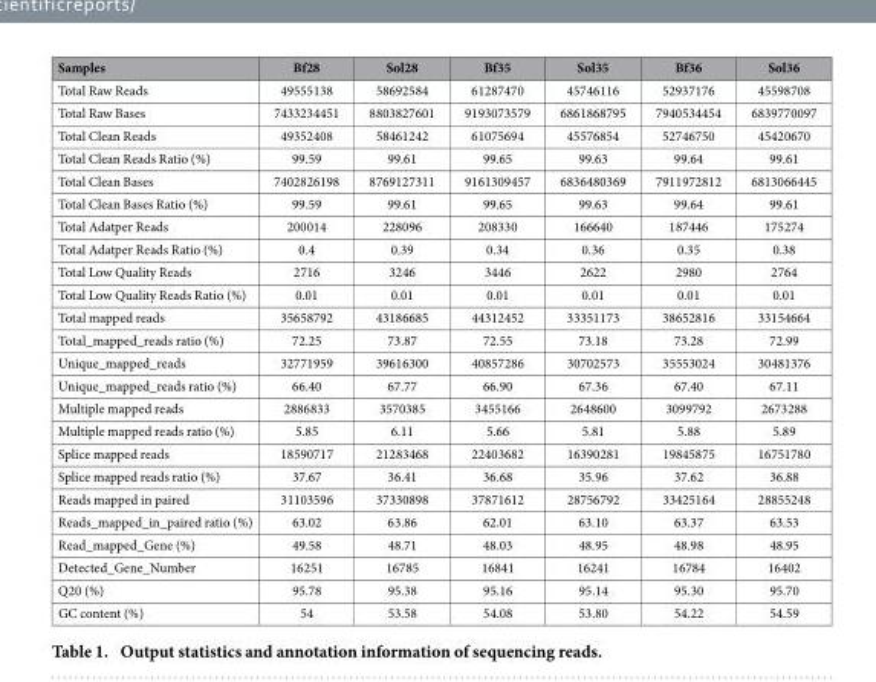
<table><thead><tr><td>Samples</td><td>Bf28</td><td>Sol28</td><td>Bf35</td><td>Sol35</td><td>Bf36</td><td>Sol36</td></tr></thead><tbody><tr><td>Total Raw Reads</td><td>49555138</td><td>58692584</td><td>61287470</td><td>45746116</td><td>52937176</td><td>45598708</td></tr><tr><td>Total Raw Bases</td><td>7433234451</td><td>8803827601</td><td>9193073579</td><td>6861868795</td><td>7940534454</td><td>6839770097</td></tr><tr><td>Total Clean Reads</td><td>49352408</td><td>58461242</td><td>61075694</td><td>45576854</td><td>52746750</td><td>45420670</td></tr><tr><td>Total Clean Reads Ratio (%)</td><td>99.59</td><td>99.61</td><td>99.65</td><td>99.63</td><td>99.64</td><td>99.61</td></tr><tr><td>Total Clean Bases</td><td>7402826198</td><td>8769127311</td><td>9161309457</td><td>6836480369</td><td>7911972812</td><td>6813066445</td></tr><tr><td>Total Clean Bases Ratio (%)</td><td>99.59</td><td>99.61</td><td>99.65</td><td>99.63</td><td>99.64</td><td>99.61</td></tr><tr><td>Total Adatper Reads</td><td>200014</td><td>228096</td><td>208330</td><td>166640</td><td>187446</td><td>175274</td></tr><tr><td>Total Adatper Reads Ratio (%)</td><td>0.4</td><td>0.39</td><td>0.34</td><td>0.36</td><td>0.35</td><td>0.38</td></tr><tr><td>Total Low Quality Reads</td><td>2716</td><td>3246</td><td>3446</td><td>2622</td><td>2980</td><td>2764</td></tr><tr><td>Total Low Quality Reads Ratio (%)</td><td>0.01</td><td>0.01</td><td>0.01</td><td>0.01</td><td>0.01</td><td>0.01</td></tr><tr><td>Total mapped reads</td><td>35658792</td><td>43186685</td><td>44312452</td><td>33351173</td><td>38652816</td><td>33154664</td></tr><tr><td>Total_mapped_reads ratio (%)</td><td>72.25</td><td>73.87</td><td>72.55</td><td>73.18</td><td>73.28</td><td>72.99</td></tr><tr><td>Unique_mapped_reads</td><td>32771959</td><td>39616300</td><td>40857286</td><td>30702573</td><td>35553024</td><td>30481376</td></tr><tr><td>Unique_mapped_reads ratio (%)</td><td>66.40</td><td>67.77</td><td>66.90</td><td>67.36</td><td>67.40</td><td>67.11</td></tr><tr><td>Multiple mapped reads</td><td>2886833</td><td>3570385</td><td>3455166</td><td>2648600</td><td>3099792</td><td>2673288</td></tr><tr><td>Multiple mapped reads ratio (%)</td><td>5.85</td><td>6.11</td><td>5.66</td><td>5.81</td><td>5.88</td><td>5.89</td></tr><tr><td>Splice mapped reads</td><td>18590717</td><td>21283468</td><td>22403682</td><td>16390281</td><td>19845875</td><td>16751780</td></tr><tr><td>Splice mapped reads ratio (%)</td><td>37.67</td><td>36.41</td><td>36.68</td><td>35.96</td><td>37.62</td><td>36.88</td></tr><tr><td>Reads mapped in paired</td><td>31103596</td><td>37330898</td><td>37871612</td><td>28756792</td><td>33425164</td><td>28855248</td></tr><tr><td>Reads_mapped_in_paired ratio (%)</td><td>63.02</td><td>63.86</td><td>62.01</td><td>63.10</td><td>63.37</td><td>63.53</td></tr><tr><td>Read_mapped_Gene (%)</td><td>49.58</td><td>48.71</td><td>48.03</td><td>48.95</td><td>48.98</td><td>48.95</td></tr><tr><td>Detected_Gene_Number</td><td>16251</td><td>16785</td><td>16841</td><td>16241</td><td>16784</td><td>16402</td></tr><tr><td>Q20 (%)</td><td>95.78</td><td>95.38</td><td>95.16</td><td>95.14</td><td>95.30</td><td>95.70</td></tr><tr><td>GC content (%)</td><td>54</td><td>53.58</td><td>54.08</td><td>53.80</td><td>54.22</td><td>54.59</td></tr></tbody></table>